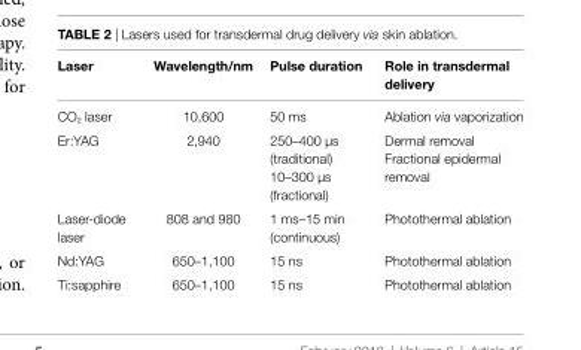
<table><thead><tr><td>laser</td><td>wavelength/nm</td><td>Pulse duration</td><td>Role in transdermal delivery</td></tr></thead><tbody><tr><td>CO<sub>2</sub> laser</td><td>10,600</td><td>50 ms</td><td>Ablation via vaporization</td></tr><tr><td>Er:YAG</td><td>2,940</td><td>250–400 µs (traditional) 10–300 µs (fractional)</td><td>Dermal removal Fractional epidermal removal</td></tr><tr><td>Laser-diode laser</td><td>808 and 980</td><td>1 ms–15 min (continuous)</td><td>Photothermal ablation</td></tr><tr><td>Nd:YAG</td><td>650–1,100</td><td>15 ns</td><td>Photothermal ablation</td></tr><tr><td>Ti:sapphire</td><td>650–1,100</td><td>15 ns</td><td>Photothermal ablation</td></tr></tbody></table>